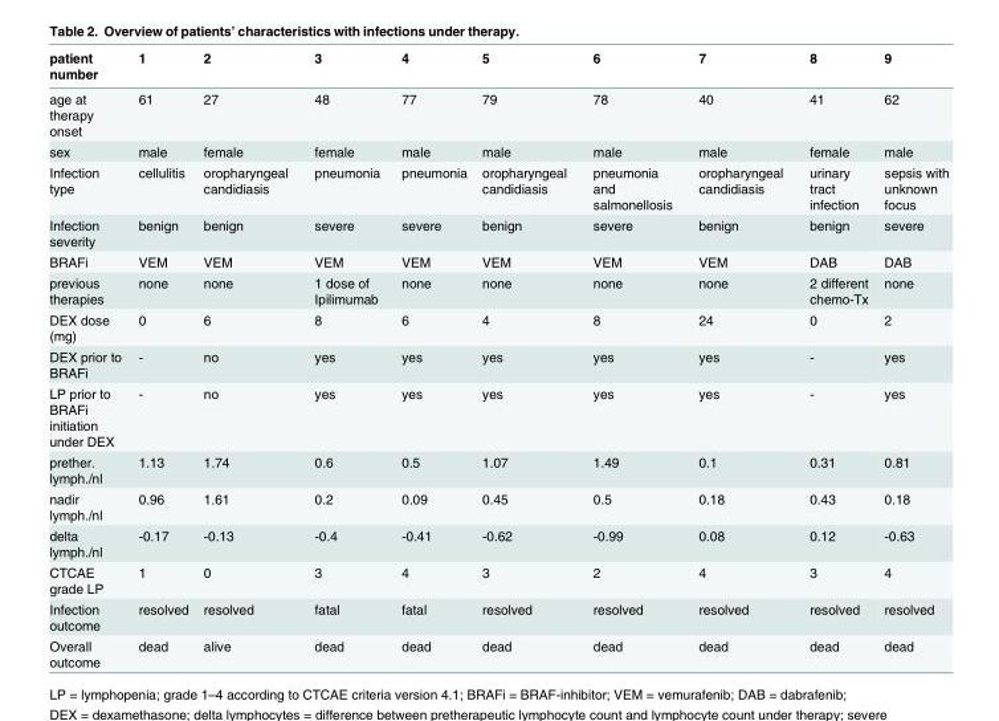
<table><thead><tr><td>patient number</td><td>1</td><td>2</td><td>3</td><td>4</td><td>5</td><td>6</td><td>7</td><td>8</td><td>9</td></tr></thead><tbody><tr><td>age at therapy onset</td><td>61</td><td>27</td><td>48</td><td>77</td><td>79</td><td>78</td><td>40</td><td>41</td><td>62</td></tr><tr><td>sex</td><td>male</td><td>female</td><td>female</td><td>male</td><td>male</td><td>male</td><td>male</td><td>female</td><td>male</td></tr><tr><td>Infection type</td><td>cellulitis</td><td>oropharyngeal candidiasis</td><td>pneumonia</td><td>pneumonia</td><td>oropharyngeal candidiasis</td><td>pneumonia and salmonellosis</td><td>oropharyngeal candidiasis</td><td>urinary tract infection</td><td>sepsis with unknown focus</td></tr><tr><td>Infection severity</td><td>benign</td><td>benign</td><td>severe</td><td>severe</td><td>benign</td><td>severe</td><td>benign</td><td>benign</td><td>severe</td></tr><tr><td>BRAFi</td><td>VEM</td><td>VEM</td><td>VEM</td><td>VEM</td><td>VEM</td><td>VEM</td><td>VEM</td><td>DAB</td><td>DAB</td></tr><tr><td>previous therapies</td><td>none</td><td>none</td><td>1 dose of Ipilimumab</td><td>none</td><td>none</td><td>none</td><td>none</td><td>2 different chemo-Tx</td><td>none</td></tr><tr><td>DEX dose (mg)</td><td>0</td><td>6</td><td>8</td><td>6</td><td>4</td><td>8</td><td>24</td><td>0</td><td>2</td></tr><tr><td>DEX prior to BRAFi</td><td>-</td><td>no</td><td>yes</td><td>yes</td><td>yes</td><td>yes</td><td>yes</td><td>-</td><td>yes</td></tr><tr><td>LP prior to BRAFi initiation under DEX</td><td>-</td><td>no</td><td>yes</td><td>yes</td><td>yes</td><td>yes</td><td>yes</td><td>-</td><td>yes</td></tr><tr><td>prether. lymph./nl</td><td>1.13</td><td>1.74</td><td>0.6</td><td>0.5</td><td>1.07</td><td>1.49</td><td>0.1</td><td>0.31</td><td>0.81</td></tr><tr><td>nadir lymph./nl</td><td>0.96</td><td>1.61</td><td>0.2</td><td>0.09</td><td>0.45</td><td>0.5</td><td>0.18</td><td>0.43</td><td>0.18</td></tr><tr><td>delta lymph./nl</td><td>-0.17</td><td>-0.13</td><td>-0.4</td><td>-0.41</td><td>-0.62</td><td>-0.99</td><td>0.08</td><td>0.12</td><td>-0.63</td></tr><tr><td>CTCAE grade LP</td><td>1</td><td>0</td><td>3</td><td>4</td><td>3</td><td>2</td><td>4</td><td>3</td><td>4</td></tr><tr><td>Infection outcome</td><td>resolved</td><td>resolved</td><td>fatal</td><td>fatal</td><td>resolved</td><td>resolved</td><td>resolved</td><td>resolved</td><td>resolved</td></tr><tr><td>Overall outcome</td><td>dead</td><td>alive</td><td>dead</td><td>dead</td><td>dead</td><td>dead</td><td>dead</td><td>dead</td><td>dead</td></tr></tbody></table>